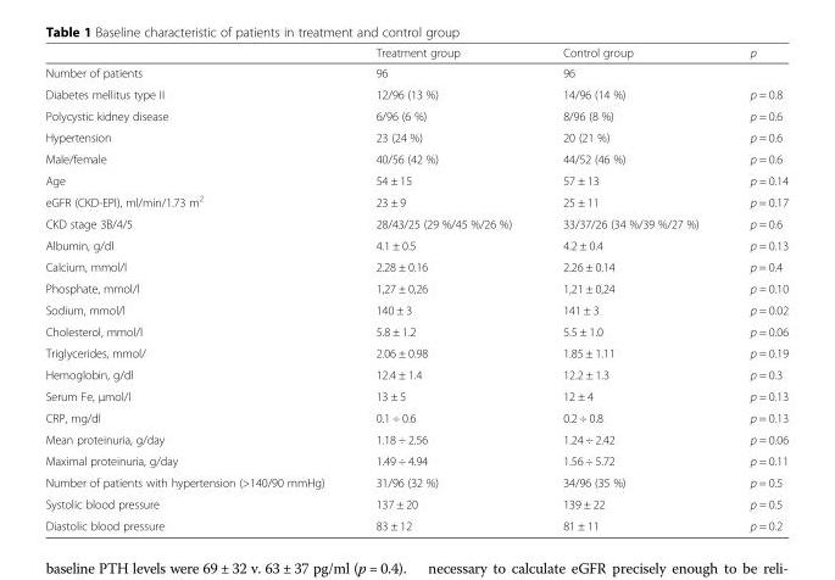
<table><thead><tr><td></td><td>Treatment group</td><td>Control group</td><td>p</td></tr></thead><tbody><tr><td>Number of patients</td><td>96</td><td>96</td><td></td></tr><tr><td>Diabetes mellitus type II</td><td>12/96 (13 %)</td><td>14/96 (14 %)</td><td>p = 0.8</td></tr><tr><td>Polycystic kidney disease</td><td>6/96 (6 %)</td><td>8/96 (8 %)</td><td>p = 0.6</td></tr><tr><td>Hypertension</td><td>23 (24 %)</td><td>20 (21 %)</td><td>p = 0.6</td></tr><tr><td>Male/female</td><td>40/56 (42 %)</td><td>44/52 (46 %)</td><td>p = 0.6</td></tr><tr><td>Age</td><td>54 ± 15</td><td>57 ± 13</td><td>p = 0.14</td></tr><tr><td>eGFR (CKD-EPI), ml/min/1.73 m<sup>2</sup></td><td>23 ± 9</td><td>25 ± 11</td><td>p = 0.17</td></tr><tr><td>CKD stage 3B/4/5</td><td>28/43/25 (29 %/45 %/26 %)</td><td>33/37/26 (34 %/39 %/27 %)</td><td>p = 0.6</td></tr><tr><td>Albumin, g/dl</td><td>4.1 ± 0.5</td><td>4.2 ± 0.4</td><td>p = 0.13</td></tr><tr><td>Calcium, mmol/l</td><td>2.28 ± 0.16</td><td>2.26 ± 0.14</td><td>p = 0.4</td></tr><tr><td>Phosphate, mmol/l</td><td>1,27 ± 0,26</td><td>1,21 ± 0,24</td><td>p = 0.10</td></tr><tr><td>Sodium, mmol/l</td><td>140 ± 3</td><td>141 ± 3</td><td>p = 0.02</td></tr><tr><td>Cholesterol, mmol/l</td><td>5.8 ± 1.2</td><td>5.5 ± 1.0</td><td>p = 0.06</td></tr><tr><td>Triglycerides, mmol/</td><td>2.06 ± 0.98</td><td>1.85 ± 1.11</td><td>p = 0.19</td></tr><tr><td>Hemoglobin, g/dl</td><td>12.4 ± 1.4</td><td>12.2 ± 1.3</td><td>p = 0.3</td></tr><tr><td>Serum Fe, μmol/l</td><td>13 ± 5</td><td>12 ± 4</td><td>p = 0.13</td></tr><tr><td>CRP, mg/dl</td><td>0.1 ÷ 0.6</td><td>0.2 ÷ 0.8</td><td>p = 0.13</td></tr><tr><td>Mean proteinuria, g/day</td><td>1.18 ÷ 2.56</td><td>1.24 ÷ 2.42</td><td>p = 0.06</td></tr><tr><td>Maximal proteinuria, g/day</td><td>1.49 ÷ 4.94</td><td>1.56 ÷ 5.72</td><td>p = 0.11</td></tr><tr><td>Number of patients with hypertension (&gt;140/90 mmHg)</td><td>31/96 (32 %)</td><td>34/96 (35 %)</td><td>p = 0.5</td></tr><tr><td>Systolic blood pressure</td><td>137 ± 20</td><td>139 ± 22</td><td>p = 0.5</td></tr><tr><td>Diastolic blood pressure</td><td>83 ± 12</td><td>81 ± 11</td><td>p = 0.2</td></tr></tbody></table>